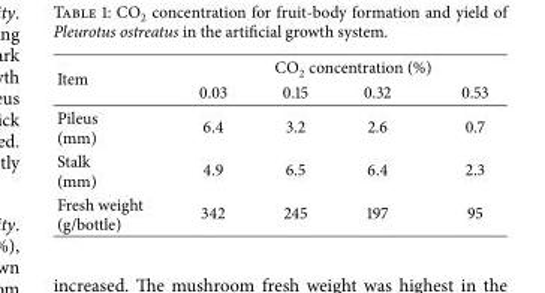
<table><thead><tr><td rowspan="2">Item</td><td colspan="4">CO<sub>2</sub> concentration (%)</td></tr><tr><td>0.03</td><td>0.15</td><td>0.32</td><td>0.53</td></tr></thead><tbody><tr><td>Pileus (mm)</td><td>6.4</td><td>3.2</td><td>2.6</td><td>0.7</td></tr><tr><td>Stalk (mm)</td><td>4.9</td><td>6.5</td><td>6.4</td><td>2.3</td></tr><tr><td>Fresh weight (g/bottle)</td><td>342</td><td>245</td><td>197</td><td>95</td></tr></tbody></table>